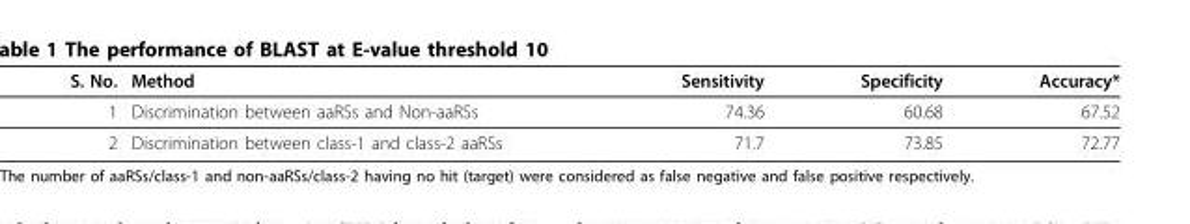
<table><thead><tr><td>S. No.</td><td>Method</td><td>Sensitivity</td><td>Specificity</td><td>Accuracy*</td></tr></thead><tbody><tr><td>1</td><td>Discrimination between aaRSs and Non-aaRSs</td><td>74.36</td><td>60.68</td><td>67.52</td></tr><tr><td>2</td><td>Discrimination between class-1 and class-2 aaRSs</td><td>71.7</td><td>73.85</td><td>72.77</td></tr></tbody></table>